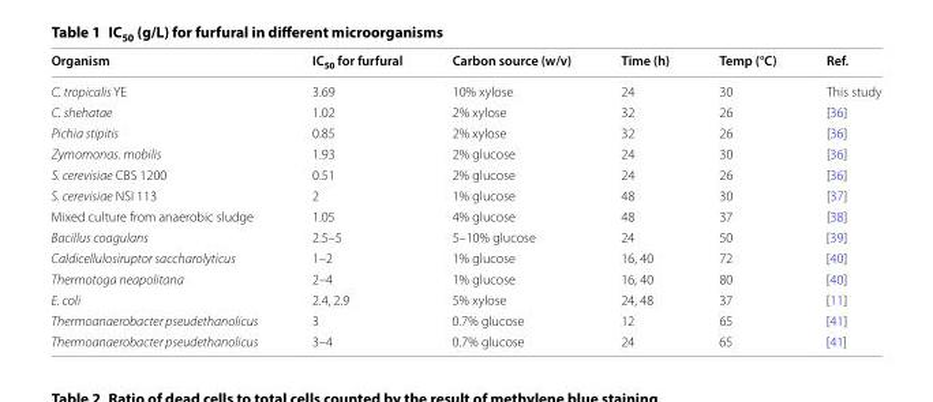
<table><thead><tr><td>Organism</td><td>IC<sub>50</sub> for furfural</td><td>Carbon source (w/v)</td><td>Time (h)</td><td>Temp (°C)</td><td>Ref.</td></tr></thead><tbody><tr><td>C. tropicalis YE</td><td>3.69</td><td>10% xylose</td><td>24</td><td>30</td><td>This study</td></tr><tr><td>C. shehatae</td><td>1.02</td><td>2% xylose</td><td>32</td><td>26</td><td>[36]</td></tr><tr><td>Pichia stipitis</td><td>0.85</td><td>2% xylose</td><td>32</td><td>26</td><td>[36]</td></tr><tr><td>Zymomonas. mobilis</td><td>1.93</td><td>2% glucose</td><td>24</td><td>30</td><td>[36]</td></tr><tr><td>S. cerevisiae CBS 1200</td><td>0.51</td><td>2% glucose</td><td>24</td><td>26</td><td>[36]</td></tr><tr><td>S. cerevisiae NSI 113</td><td>2</td><td>1% glucose</td><td>48</td><td>30</td><td>[37]</td></tr><tr><td>Mixed culture from anaerobic sludge</td><td>1.05</td><td>4% glucose</td><td>48</td><td>37</td><td>[38]</td></tr><tr><td>Bacillus coagulans</td><td>2.5–5</td><td>5–10% glucose</td><td>24</td><td>50</td><td>[39]</td></tr><tr><td>Caldicellulosiruptor saccharolyticus</td><td>1–2</td><td>1% glucose</td><td>16, 40</td><td>72</td><td>[40]</td></tr><tr><td>Thermotoga neapolitana</td><td>2–4</td><td>1% glucose</td><td>16, 40</td><td>80</td><td>[40]</td></tr><tr><td>E. coli</td><td>2.4, 2.9</td><td>5% xylose</td><td>24, 48</td><td>37</td><td>[11]</td></tr><tr><td>Thermoanaerobacter pseudethanolicus</td><td>3</td><td>0.7% glucose</td><td>12</td><td>65</td><td>[41]</td></tr><tr><td>Thermoanaerobacter pseudethanolicus</td><td>3–4</td><td>0.7% glucose</td><td>24</td><td>65</td><td>[41]</td></tr></tbody></table>